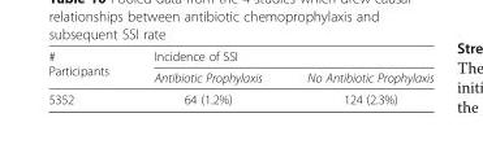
<table><thead><tr><td rowspan="2"># Participants</td><td colspan="2">Incidence of SSI</td></tr><tr><td>Antibiotic Prophylaxis</td><td>No Antibiotic Prophylaxis</td></tr></thead><tbody><tr><td>5352</td><td>64 (1.2%)</td><td>124 (2.3%)</td></tr></tbody></table>